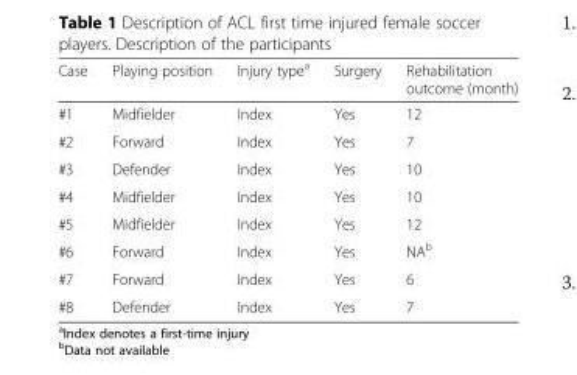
<table><thead><tr><td>Case</td><td>Playing position</td><td>Injury type<sup>a</sup></td><td>Surgery</td><td>Rehabilitation outcome (month)</td></tr></thead><tbody><tr><td>#1</td><td>Midfielder</td><td>Index</td><td>Yes</td><td>12</td></tr><tr><td>#2</td><td>Forward</td><td>Index</td><td>Yes</td><td>7</td></tr><tr><td>#3</td><td>Defender</td><td>Index</td><td>Yes</td><td>10</td></tr><tr><td>#4</td><td>Midfielder</td><td>Index</td><td>Yes</td><td>10</td></tr><tr><td>#5</td><td>Midfielder</td><td>Index</td><td>Yes</td><td>12</td></tr><tr><td>#6</td><td>Forward</td><td>Index</td><td>Yes</td><td>NA<sup>b</sup></td></tr><tr><td>#7</td><td>Forward</td><td>Index</td><td>Yes</td><td>6</td></tr><tr><td>#8</td><td>Defender</td><td>Index</td><td>Yes</td><td>7</td></tr></tbody></table>